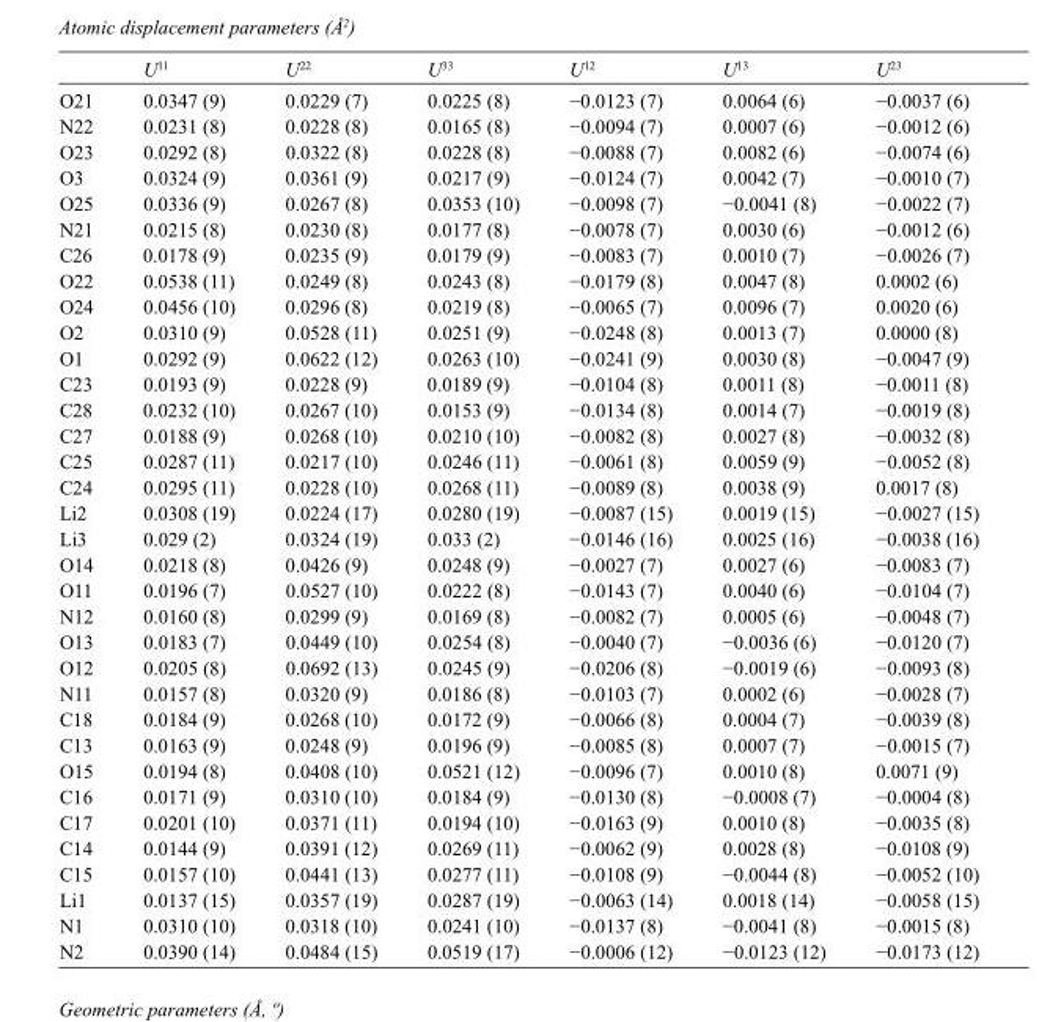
<table><thead><tr><td></td><td>U<sup>11</sup></td><td>U<sup>22</sup></td><td>U<sup>33</sup></td><td>U<sup>12</sup></td><td>U<sup>13</sup></td><td>U<sup>23</sup></td></tr></thead><tbody><tr><td>O21</td><td>0.0347 (9)</td><td>0.0229 (7)</td><td>0.0225 (8)</td><td>−0.0123 (7)</td><td>0.0064 (6)</td><td>−0.0037 (6)</td></tr><tr><td>N22</td><td>0.0231 (8)</td><td>0.0228 (8)</td><td>0.0165 (8)</td><td>−0.0094 (7)</td><td>0.0007 (6)</td><td>−0.0012 (6)</td></tr><tr><td>O23</td><td>0.0292 (8)</td><td>0.0322 (8)</td><td>0.0228 (8)</td><td>−0.0088 (7)</td><td>0.0082 (6)</td><td>−0.0074 (6)</td></tr><tr><td>O3</td><td>0.0324 (9)</td><td>0.0361 (9)</td><td>0.0217 (9)</td><td>−0.0124 (7)</td><td>0.0042 (7)</td><td>−0.0010 (7)</td></tr><tr><td>O25</td><td>0.0336 (9)</td><td>0.0267 (8)</td><td>0.0353 (10)</td><td>−0.0098 (7)</td><td>−0.0041 (8)</td><td>−0.0022 (7)</td></tr><tr><td>N21</td><td>0.0215 (8)</td><td>0.0230 (8)</td><td>0.0177 (8)</td><td>−0.0078 (7)</td><td>0.0030 (6)</td><td>−0.0012 (6)</td></tr><tr><td>C26</td><td>0.0178 (9)</td><td>0.0235 (9)</td><td>0.0179 (9)</td><td>−0.0083 (7)</td><td>0.0010 (7)</td><td>−0.0026 (7)</td></tr><tr><td>O22</td><td>0.0538 (11)</td><td>0.0249 (8)</td><td>0.0243 (8)</td><td>−0.0179 (8)</td><td>0.0047 (8)</td><td>0.0002 (6)</td></tr><tr><td>O24</td><td>0.0456 (10)</td><td>0.0296 (8)</td><td>0.0219 (8)</td><td>−0.0065 (7)</td><td>0.0096 (7)</td><td>0.0020 (6)</td></tr><tr><td>O2</td><td>0.0310 (9)</td><td>0.0528 (11)</td><td>0.0251 (9)</td><td>−0.0248 (8)</td><td>0.0013 (7)</td><td>0.0000 (8)</td></tr><tr><td>O1</td><td>0.0292 (9)</td><td>0.0622 (12)</td><td>0.0263 (10)</td><td>−0.0241 (9)</td><td>0.0030 (8)</td><td>−0.0047 (9)</td></tr><tr><td>C23</td><td>0.0193 (9)</td><td>0.0228 (9)</td><td>0.0189 (9)</td><td>−0.0104 (8)</td><td>0.0011 (8)</td><td>−0.0011 (8)</td></tr><tr><td>C28</td><td>0.0232 (10)</td><td>0.0267 (10)</td><td>0.0153 (9)</td><td>−0.0134 (8)</td><td>0.0014 (7)</td><td>−0.0019 (8)</td></tr><tr><td>C27</td><td>0.0188 (9)</td><td>0.0268 (10)</td><td>0.0210 (10)</td><td>−0.0082 (8)</td><td>0.0027 (8)</td><td>−0.0032 (8)</td></tr><tr><td>C25</td><td>0.0287 (11)</td><td>0.0217 (10)</td><td>0.0246 (11)</td><td>−0.0061 (8)</td><td>0.0059 (9)</td><td>−0.0052 (8)</td></tr><tr><td>C24</td><td>0.0295 (11)</td><td>0.0228 (10)</td><td>0.0268 (11)</td><td>−0.0089 (8)</td><td>0.0038 (9)</td><td>0.0017 (8)</td></tr><tr><td>Li2</td><td>0.0308 (19)</td><td>0.0224 (17)</td><td>0.0280 (19)</td><td>−0.0087 (15)</td><td>0.0019 (15)</td><td>−0.0027 (15)</td></tr><tr><td>Li3</td><td>0.029 (2)</td><td>0.0324 (19)</td><td>0.033 (2)</td><td>−0.0146 (16)</td><td>0.0025 (16)</td><td>−0.0038 (16)</td></tr><tr><td>O14</td><td>0.0218 (8)</td><td>0.0426 (9)</td><td>0.0248 (9)</td><td>−0.0027 (7)</td><td>0.0027 (6)</td><td>−0.0083 (7)</td></tr><tr><td>O11</td><td>0.0196 (7)</td><td>0.0527 (10)</td><td>0.0222 (8)</td><td>−0.0143 (7)</td><td>0.0040 (6)</td><td>−0.0104 (7)</td></tr><tr><td>N12</td><td>0.0160 (8)</td><td>0.0299 (9)</td><td>0.0169 (8)</td><td>−0.0082 (7)</td><td>0.0005 (6)</td><td>−0.0048 (7)</td></tr><tr><td>O13</td><td>0.0183 (7)</td><td>0.0449 (10)</td><td>0.0254 (8)</td><td>−0.0040 (7)</td><td>−0.0036 (6)</td><td>−0.0120 (7)</td></tr><tr><td>O12</td><td>0.0205 (8)</td><td>0.0692 (13)</td><td>0.0245 (9)</td><td>−0.0206 (8)</td><td>−0.0019 (6)</td><td>−0.0093 (8)</td></tr><tr><td>N11</td><td>0.0157 (8)</td><td>0.0320 (9)</td><td>0.0186 (8)</td><td>−0.0103 (7)</td><td>0.0002 (6)</td><td>−0.0028 (7)</td></tr><tr><td>C18</td><td>0.0184 (9)</td><td>0.0268 (10)</td><td>0.0172 (9)</td><td>−0.0066 (8)</td><td>0.0004 (7)</td><td>−0.0039 (8)</td></tr><tr><td>C13</td><td>0.0163 (9)</td><td>0.0248 (9)</td><td>0.0196 (9)</td><td>−0.0085 (8)</td><td>0.0007 (7)</td><td>−0.0015 (7)</td></tr><tr><td>O15</td><td>0.0194 (8)</td><td>0.0408 (10)</td><td>0.0521 (12)</td><td>−0.0096 (7)</td><td>0.0010 (8)</td><td>0.0071 (9)</td></tr><tr><td>C16</td><td>0.0171 (9)</td><td>0.0310 (10)</td><td>0.0184 (9)</td><td>−0.0130 (8)</td><td>−0.0008 (7)</td><td>−0.0004 (8)</td></tr><tr><td>C17</td><td>0.0201 (10)</td><td>0.0371 (11)</td><td>0.0194 (10)</td><td>−0.0163 (9)</td><td>0.0010 (8)</td><td>−0.0035 (8)</td></tr><tr><td>C14</td><td>0.0144 (9)</td><td>0.0391 (12)</td><td>0.0269 (11)</td><td>−0.0062 (9)</td><td>0.0028 (8)</td><td>−0.0108 (9)</td></tr><tr><td>C15</td><td>0.0157 (10)</td><td>0.0441 (13)</td><td>0.0277 (11)</td><td>−0.0108 (9)</td><td>−0.0044 (8)</td><td>−0.0052 (10)</td></tr><tr><td>Li1</td><td>0.0137 (15)</td><td>0.0357 (19)</td><td>0.0287 (19)</td><td>−0.0063 (14)</td><td>0.0018 (14)</td><td>−0.0058 (15)</td></tr><tr><td>N1</td><td>0.0310 (10)</td><td>0.0318 (10)</td><td>0.0241 (10)</td><td>−0.0137 (8)</td><td>−0.0041 (8)</td><td>−0.0015 (8)</td></tr><tr><td>N2</td><td>0.0390 (14)</td><td>0.0484 (15)</td><td>0.0519 (17)</td><td>−0.0006 (12)</td><td>−0.0123 (12)</td><td>−0.0173 (12)</td></tr></tbody></table>